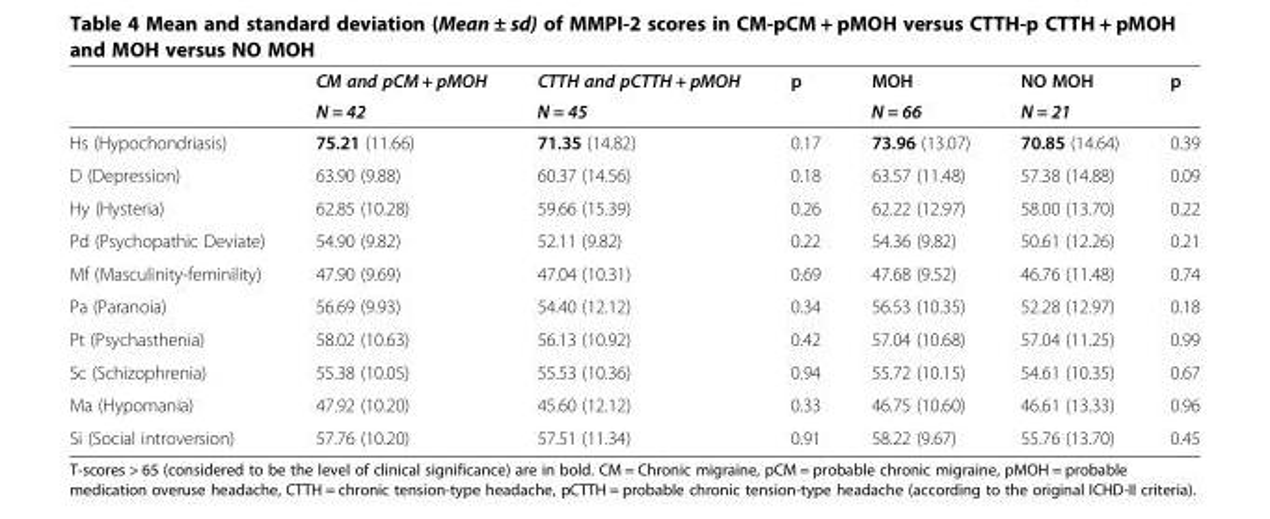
<table><thead><tr><td rowspan="2"></td><td rowspan="2">CM and pCM + pMOH N = 42</td><td rowspan="2">CTTH and pCTTH + pMOH N = 45</td><td rowspan="2">p</td><td rowspan="2">MOH N = 66</td><td rowspan="2">NO MOH N = 21</td><td rowspan="2">p</td></tr><tr></tr></thead><tbody><tr><td>Hs (Hypochondriasis)</td><td>75.21 (11.66)</td><td>71.35 (14.82)</td><td>0.17</td><td>73.96 (13.07)</td><td>70.85 (14.64)</td><td>0.39</td></tr><tr><td>D (Depression)</td><td>63.90 (9.88)</td><td>60.37 (14.56)</td><td>0.18</td><td>63.57 (11.48)</td><td>57.38 (14.88)</td><td>0.09</td></tr><tr><td>Hy (Hysteria)</td><td>62.85 (10.28)</td><td>59.66 (15.39)</td><td>0.26</td><td>62.22 (12.97)</td><td>58.00 (13.70)</td><td>0.22</td></tr><tr><td>Pd (Psychopathic Deviate)</td><td>54.90 (9.82)</td><td>52.11 (9.82)</td><td>0.22</td><td>54.36 (9.82)</td><td>50.61 (12.26)</td><td>0.21</td></tr><tr><td>Mf (Masculinity-feminility)</td><td>47.90 (9.69)</td><td>47.04 (10.31)</td><td>0.69</td><td>47.68 (9.52)</td><td>46.76 (11.48)</td><td>0.74</td></tr><tr><td>Pa (Paranoia)</td><td>56.69 (9.93)</td><td>54.40 (12.12)</td><td>0.34</td><td>56.53 (10.35)</td><td>52.28 (12.97)</td><td>0.18</td></tr><tr><td>Pt (Psychasthenia)</td><td>58.02 (10.63)</td><td>56.13 (10.92)</td><td>0.42</td><td>57.04 (10.68)</td><td>57.04 (11.25)</td><td>0.99</td></tr><tr><td>Sc (Schizophrenia)</td><td>55.38 (10.05)</td><td>55.53 (10.36)</td><td>0.94</td><td>55.72 (10.15)</td><td>54.61 (10.35)</td><td>0.67</td></tr><tr><td>Ma (Hypomania)</td><td>47.92 (10.20)</td><td>45.60 (12.12)</td><td>0.33</td><td>46.75 (10.60)</td><td>46.61 (13.33)</td><td>0.96</td></tr><tr><td>Si (Social introversion)</td><td>57.76 (10.20)</td><td>57.51 (11.34)</td><td>0.91</td><td>58.22 (9.67)</td><td>55.76 (13.70)</td><td>0.45</td></tr></tbody></table>